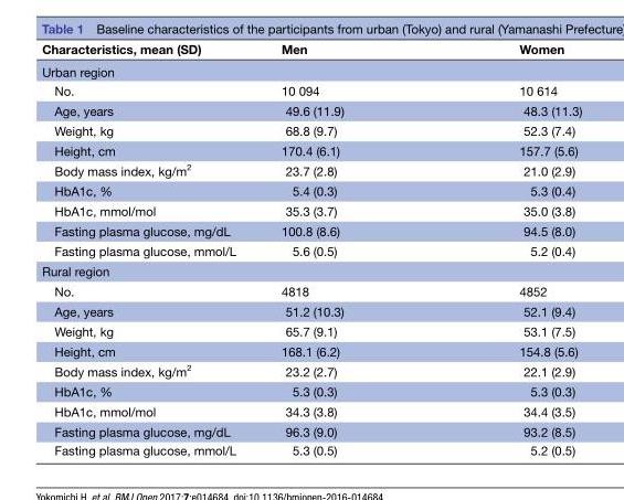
<table><thead><tr><td>Characteristics, mean (SD)</td><td>Men</td><td>Women</td></tr></thead><tbody><tr><td colspan="3">Urban region</td></tr><tr><td>No.</td><td>10 094</td><td>10 614</td></tr><tr><td>Age, years</td><td>49.6 (11.9)</td><td>48.3 (11.3)</td></tr><tr><td>Weight, kg</td><td>68.8 (9.7)</td><td>52.3 (7.4)</td></tr><tr><td>Height, cm</td><td>170.4 (6.1)</td><td>157.7 (5.6)</td></tr><tr><td>Body mass index, kg/m<sup>2</sup></td><td>23.7 (2.8)</td><td>21.0 (2.9)</td></tr><tr><td>HbA1c, %</td><td>5.4 (0.3)</td><td>5.3 (0.4)</td></tr><tr><td>HbA1c, mmol/mol</td><td>35.3 (3.7)</td><td>35.0 (3.8)</td></tr><tr><td>Fasting plasma glucose, mg/dL</td><td>100.8 (8.6)</td><td>94.5 (8.0)</td></tr><tr><td>Fasting plasma glucose, mmol/L</td><td>5.6 (0.5)</td><td>5.2 (0.4)</td></tr><tr><td colspan="3">Rural region</td></tr><tr><td>No.</td><td>4818</td><td>4852</td></tr><tr><td>Age, years</td><td>51.2 (10.3)</td><td>52.1 (9.4)</td></tr><tr><td>Weight, kg</td><td>65.7 (9.1)</td><td>53.1 (7.5)</td></tr><tr><td>Height, cm</td><td>168.1 (6.2)</td><td>154.8 (5.6)</td></tr><tr><td>Body mass index, kg/m<sup>2</sup></td><td>23.2 (2.7)</td><td>22.1 (2.9)</td></tr><tr><td>HbA1c, %</td><td>5.3 (0.3)</td><td>5.3 (0.3)</td></tr><tr><td>HbA1c, mmol/mol</td><td>34.3 (3.8)</td><td>34.4 (3.5)</td></tr><tr><td>Fasting plasma glucose, mg/dL</td><td>96.3 (9.0)</td><td>93.2 (8.5)</td></tr><tr><td>Fasting plasma glucose, mmol/L</td><td>5.3 (0.5)</td><td>5.2 (0.5)</td></tr></tbody></table>